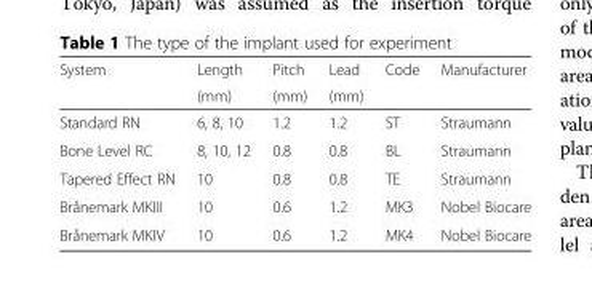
<table><thead><tr><td rowspan="2">System</td><td rowspan="2">Length (mm)</td><td rowspan="2">Pitch (mm)</td><td rowspan="2">Lead (mm)</td><td rowspan="2">Code</td><td rowspan="2">Manufacturer</td></tr><tr></tr></thead><tbody><tr><td>Standard RN</td><td>6, 8, 10</td><td>1.2</td><td>1.2</td><td>ST</td><td>Straumann</td></tr><tr><td>Bone Level RC</td><td>8, 10, 12</td><td>0.8</td><td>0.8</td><td>BL</td><td>Straumann</td></tr><tr><td>Tapered Effect RN</td><td>10</td><td>0.8</td><td>0.8</td><td>TE</td><td>Straumann</td></tr><tr><td>Brånemark MKIII</td><td>10</td><td>0.6</td><td>1.2</td><td>MK3</td><td>Nobel Biocare</td></tr><tr><td>Brånemark MKIV</td><td>10</td><td>0.6</td><td>1.2</td><td>MK4</td><td>Nobel Biocare</td></tr></tbody></table>